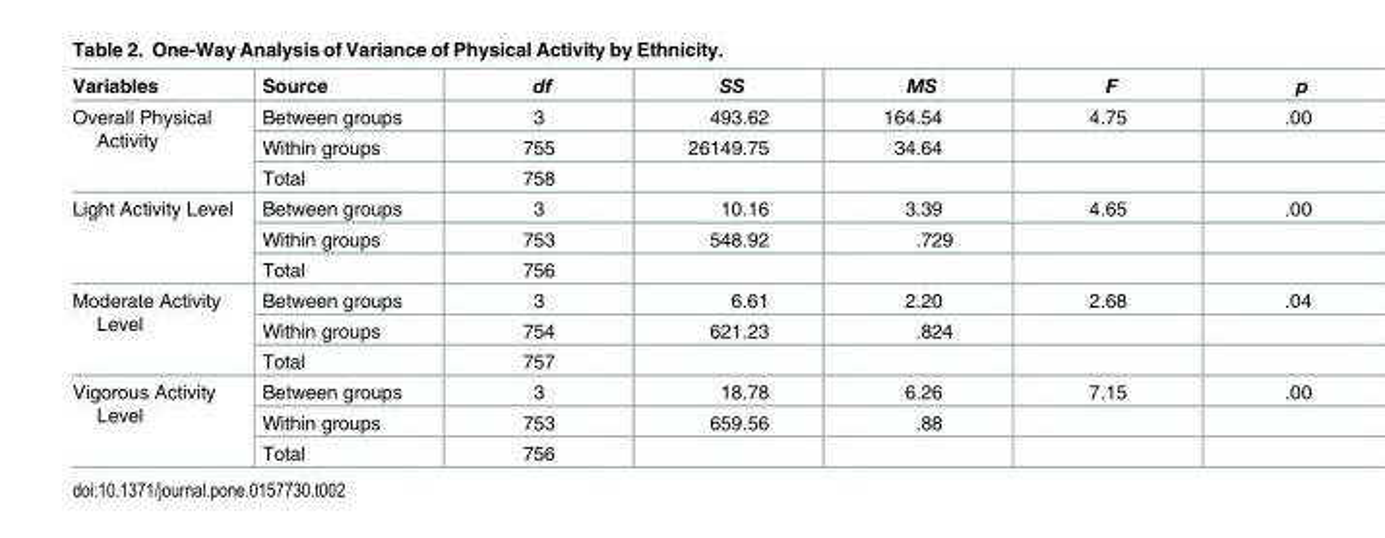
<table><thead><tr><td>Variables</td><td>Source</td><td>df</td><td>SS</td><td>MS</td><td>F</td><td>p</td></tr></thead><tbody><tr><td rowspan="3">Overall Physical Activity</td><td>Between groups</td><td>3</td><td>493.62</td><td>164.54</td><td>4.75</td><td>.00</td></tr><tr><td>Within groups</td><td>755</td><td>26149.75</td><td>34.64</td><td></td><td></td></tr><tr><td>Total</td><td>758</td><td></td><td></td><td></td><td></td></tr><tr><td rowspan="3">Light Activity Level</td><td>Between groups</td><td>3</td><td>10.16</td><td>3.39</td><td>4.65</td><td>.00</td></tr><tr><td>Within groups</td><td>753</td><td>548.92</td><td>.729</td><td></td><td></td></tr><tr><td>Total</td><td>756</td><td></td><td></td><td></td><td></td></tr><tr><td rowspan="3">Moderate Activity Level</td><td>Between groups</td><td>3</td><td>6.61</td><td>2.20</td><td>2.68</td><td>.04</td></tr><tr><td>Within groups</td><td>754</td><td>621.23</td><td>.824</td><td></td><td></td></tr><tr><td>Total</td><td>757</td><td></td><td></td><td></td><td></td></tr><tr><td rowspan="3">Vigorous Activity Level</td><td>Between groups</td><td>3</td><td>18.78</td><td>6.26</td><td>7.15</td><td>.00</td></tr><tr><td>Within groups</td><td>753</td><td>659.56</td><td>.88</td><td></td><td></td></tr><tr><td>Total</td><td>756</td><td></td><td></td><td></td><td></td></tr></tbody></table>